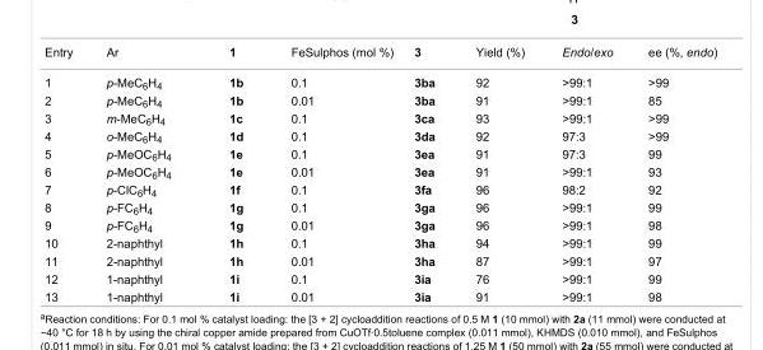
<table><tbody><tr><td>Entry</td><td>Ar</td><td>1</td><td>FeSulphos (mol %)</td><td>3</td><td>Yield (%)</td><td>Endo/exo</td><td>ee (%, endo)</td></tr><tr><td>1</td><td>p-MeC<sub>6</sub>H<sub>4</sub></td><td>1b</td><td>0.1</td><td>3ba</td><td>92</td><td>&gt;99:1</td><td>&gt;99</td></tr><tr><td>2</td><td>p-MeC<sub>6</sub>H<sub>4</sub></td><td>1b</td><td>0.01</td><td>3ba</td><td>91</td><td>&gt;99:1</td><td>85</td></tr><tr><td>3</td><td>m-MeC<sub>6</sub>H<sub>4</sub></td><td>1c</td><td>0.1</td><td>3ca</td><td>93</td><td>&gt;99:1</td><td>&gt;99</td></tr><tr><td>4</td><td>o-MeC<sub>6</sub>H<sub>4</sub></td><td>1d</td><td>0.1</td><td>3da</td><td>92</td><td>97:3</td><td>&gt;99</td></tr><tr><td>5</td><td>p-MeOC<sub>6</sub>H<sub>4</sub></td><td>1e</td><td>0.1</td><td>3ea</td><td>91</td><td>97:3</td><td>99</td></tr><tr><td>6</td><td>p-MeOC<sub>6</sub>H<sub>4</sub></td><td>1e</td><td>0.01</td><td>3ea</td><td>91</td><td>&gt;99:1</td><td>93</td></tr><tr><td>7</td><td>p-ClC<sub>6</sub>H<sub>4</sub></td><td>1f</td><td>0.1</td><td>3fa</td><td>96</td><td>98:2</td><td>92</td></tr><tr><td>8</td><td>p-FC<sub>6</sub>H<sub>4</sub></td><td>1g</td><td>0.1</td><td>3ga</td><td>96</td><td>&gt;99:1</td><td>99</td></tr><tr><td>9</td><td>p-FC<sub>6</sub>H<sub>4</sub></td><td>1g</td><td>0.01</td><td>3ga</td><td>96</td><td>&gt;99:1</td><td>98</td></tr><tr><td>10</td><td>2-naphthyl</td><td>1h</td><td>0.1</td><td>3ha</td><td>94</td><td>&gt;99:1</td><td>99</td></tr><tr><td>11</td><td>2-naphthyl</td><td>1h</td><td>0.01</td><td>3ha</td><td>87</td><td>&gt;99:1</td><td>97</td></tr><tr><td>12</td><td>1-naphthyl</td><td>1i</td><td>0.1</td><td>3ia</td><td>76</td><td>&gt;99:1</td><td>99</td></tr><tr><td>13</td><td>1-naphthyl</td><td>1i</td><td>0.01</td><td>3ia</td><td>91</td><td>&gt;99:1</td><td>98</td></tr></tbody></table>